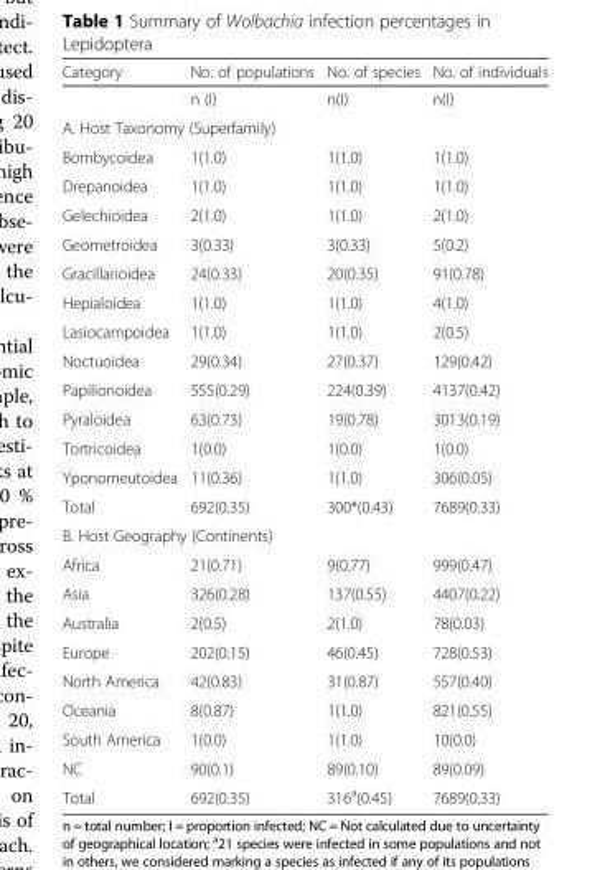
<table><thead><tr><td>Category</td><td>No. of populations</td><td>No. of species</td><td>No. of individuals</td></tr></thead><tbody><tr><td></td><td>n (I)</td><td>n(I)</td><td>n(I)</td></tr><tr><td colspan="4">A. Host Taxonomy (Superfamily)</td></tr><tr><td>Bombycoidea</td><td>1(1.0)</td><td>1(1.0)</td><td>1(1.0)</td></tr><tr><td>Drepanoidea</td><td>1(1.0)</td><td>1(1.0)</td><td>1(1.0)</td></tr><tr><td>Gelechioidea</td><td>2(1.0)</td><td>1(1.0)</td><td>2(1.0)</td></tr><tr><td>Geometroidea</td><td>3(0.33)</td><td>3(0.33)</td><td>5(0.2)</td></tr><tr><td>Gracillarioidea</td><td>24(0.33)</td><td>20(0.35)</td><td>91(0.78)</td></tr><tr><td>Hepialoidea</td><td>1(1.0)</td><td>1(1.0)</td><td>4(1.0)</td></tr><tr><td>Lasiocampoidea</td><td>1(1.0)</td><td>1(1.0)</td><td>2(0.5)</td></tr><tr><td>Noctuoidea</td><td>29(0.34)</td><td>27(0.37)</td><td>129(0.42)</td></tr><tr><td>Papilionoidea</td><td>555(0.29)</td><td>224(0.39)</td><td>4137(0.42)</td></tr><tr><td>Pyraloidea</td><td>63(0.73)</td><td>19(0.78)</td><td>3013(0.19)</td></tr><tr><td>Tortricoidea</td><td>1(0.0)</td><td>1(0.0)</td><td>1(0.0)</td></tr><tr><td>Yponomeutoidea</td><td>11(0.36)</td><td>1(1.0)</td><td>306(0.05)</td></tr><tr><td>Total</td><td>692(0.35)</td><td>300*(0.43)</td><td>7689(0.33)</td></tr><tr><td colspan="4">B. Host Geography (Continents)</td></tr><tr><td>Africa</td><td>21(0.71)</td><td>9(0.77)</td><td>999(0.47)</td></tr><tr><td>Asia</td><td>326(0.28)</td><td>137(0.55)</td><td>4407(0.22)</td></tr><tr><td>Australia</td><td>2(0.5)</td><td>2(1.0)</td><td>78(0.03)</td></tr><tr><td>Europe</td><td>202(0.15)</td><td>46(0.45)</td><td>728(0.53)</td></tr><tr><td>North America</td><td>42(0.83)</td><td>31(0.87)</td><td>557(0.40)</td></tr><tr><td>Oceania</td><td>8(0.87)</td><td>1(1.0)</td><td>821(0.55)</td></tr><tr><td>South America</td><td>1(0.0)</td><td>1(1.0)</td><td>10(0.0)</td></tr><tr><td>NC</td><td>90(0.1)</td><td>89(0.10)</td><td>89(0.09)</td></tr><tr><td>Total</td><td>692(0.35)</td><td>316<sup>a</sup>(0.45)</td><td>7689(0.33)</td></tr></tbody></table>